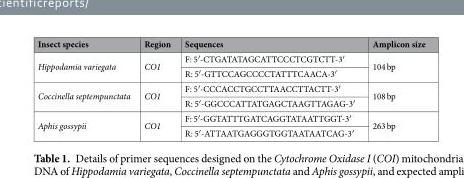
<table><thead><tr><td>Insect species</td><td>Region</td><td>Sequences</td><td>Amplicon size</td></tr></thead><tbody><tr><td rowspan="2">Hippodamia variegata</td><td rowspan="2">CO1</td><td>F: 5′-CTGATATAGCATTCCCTCGTCTT-3′</td><td rowspan="2">104 bp</td></tr><tr><td>R: 5′-GTTCCAGCCCCTATTTCAACA-3′</td></tr><tr><td rowspan="2">Coccinella septempunctata</td><td rowspan="2">CO1</td><td>F: 5′-CCCACCTGCCTTAACCTTACTT-3′</td><td rowspan="2">108 bp</td></tr><tr><td>R: 5′-GGCCCATTATGAGCTAAGTTAGAG-3′</td></tr><tr><td rowspan="2">Aphis gossypii</td><td rowspan="2">CO1</td><td>F: 5′-GGTATTTGATCAGGTATAATTGGT-3′</td><td rowspan="2">263 bp</td></tr><tr><td>R: 5′-ATTAATGAGGGTGGTAATAATCAG-3′</td></tr></tbody></table>